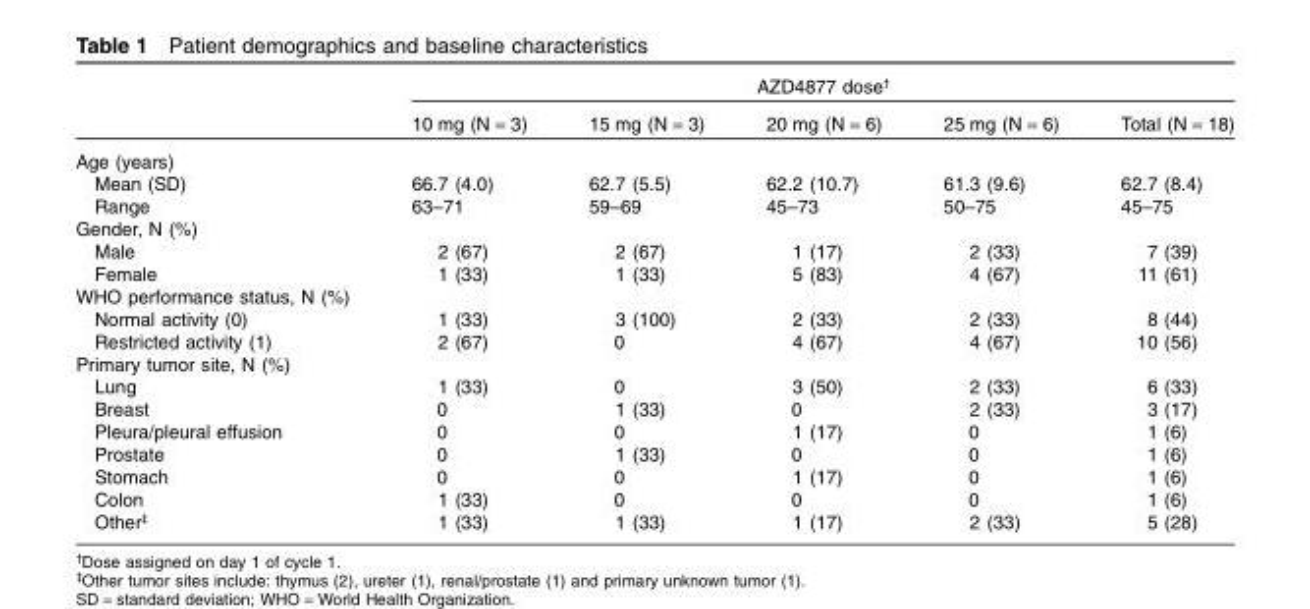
<table><thead><tr><td rowspan="2"></td><td colspan="5">AZD4877 dose†</td></tr><tr><td>10 mg (N = 3)</td><td>15 mg (N = 3)</td><td>20 mg (N = 6)</td><td>25 mg (N = 6)</td><td>Total (N = 18)</td></tr></thead><tbody><tr><td colspan="6">Age (years)</td></tr><tr><td>Mean (SD)</td><td>66.7 (4.0)</td><td>62.7 (5.5)</td><td>62.2 (10.7)</td><td>61.3 (9.6)</td><td>62.7 (8.4)</td></tr><tr><td>Range</td><td>63–71</td><td>59–69</td><td>45–73</td><td>50–75</td><td>45–75</td></tr><tr><td colspan="6">Gender, N (%)</td></tr><tr><td>Male</td><td>2 (67)</td><td>2 (67)</td><td>1 (17)</td><td>2 (33)</td><td>7 (39)</td></tr><tr><td>Female</td><td>1 (33)</td><td>1 (33)</td><td>5 (83)</td><td>4 (67)</td><td>11 (61)</td></tr><tr><td colspan="6">WHO performance status, N (%)</td></tr><tr><td>Normal activity (0)</td><td>1 (33)</td><td>3 (100)</td><td>2 (33)</td><td>2 (33)</td><td>8 (44)</td></tr><tr><td>Restricted activity (1)</td><td>2 (67)</td><td>0</td><td>4 (67)</td><td>4 (67)</td><td>10 (56)</td></tr><tr><td colspan="6">Primary tumor site, N (%)</td></tr><tr><td>Lung</td><td>1 (33)</td><td>0</td><td>3 (50)</td><td>2 (33)</td><td>6 (33)</td></tr><tr><td>Breast</td><td>0</td><td>1 (33)</td><td>0</td><td>2 (33)</td><td>3 (17)</td></tr><tr><td>Pleura/pleural effusion</td><td>0</td><td>0</td><td>1 (17)</td><td>0</td><td>1 (6)</td></tr><tr><td>Prostate</td><td>0</td><td>1 (33)</td><td>0</td><td>0</td><td>1 (6)</td></tr><tr><td>Stomach</td><td>0</td><td>0</td><td>1 (17)</td><td>0</td><td>1 (6)</td></tr><tr><td>Colon</td><td>1 (33)</td><td>0</td><td>0</td><td>0</td><td>1 (6)</td></tr><tr><td>Other‡</td><td>1 (33)</td><td>1 (33)</td><td>1 (17)</td><td>2 (33)</td><td>5 (28)</td></tr></tbody></table>